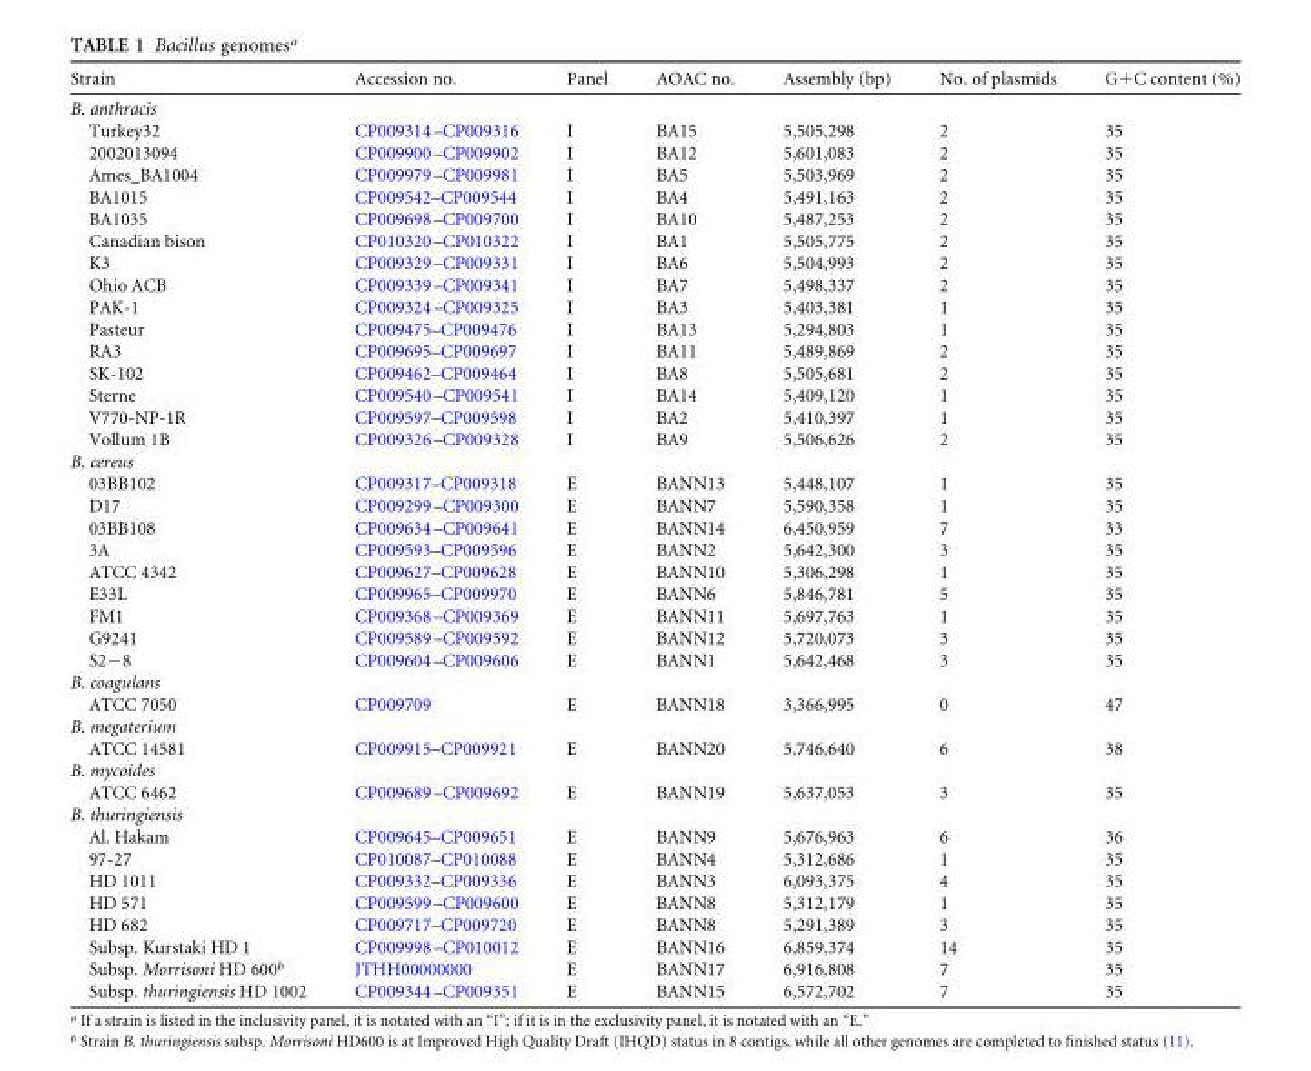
<table><thead><tr><td>Strain</td><td>Accession no.</td><td>Panel</td><td>AOAC no.</td><td>Assembly (bp)</td><td>No. of plasmids</td><td>G+C content (%)</td></tr></thead><tbody><tr><td colspan="7">B. anthracis</td></tr><tr><td>Turkey32</td><td>CP009314–CP009316</td><td>I</td><td>BA15</td><td>5,505,298</td><td>2</td><td>35</td></tr><tr><td>2002013094</td><td>CP009900–CP009902</td><td>I</td><td>BA12</td><td>5,601,083</td><td>2</td><td>35</td></tr><tr><td>Ames_BA1004</td><td>CP009979–CP009981</td><td>I</td><td>BA5</td><td>5,503,969</td><td>2</td><td>35</td></tr><tr><td>BA1015</td><td>CP009542–CP009544</td><td>I</td><td>BA4</td><td>5,491,163</td><td>2</td><td>35</td></tr><tr><td>BA1035</td><td>CP009698–CP009700</td><td>I</td><td>BA10</td><td>5,487,253</td><td>2</td><td>35</td></tr><tr><td>Canadian bison</td><td>CP010320–CP010322</td><td>I</td><td>BA1</td><td>5,505,775</td><td>2</td><td>35</td></tr><tr><td>K3</td><td>CP009329–CP009331</td><td>I</td><td>BA6</td><td>5,504,993</td><td>2</td><td>35</td></tr><tr><td>Ohio ACB</td><td>CP009339–CP009341</td><td>I</td><td>BA7</td><td>5,498,337</td><td>2</td><td>35</td></tr><tr><td>PAK-1</td><td>CP009324–CP009325</td><td>I</td><td>BA3</td><td>5,403,381</td><td>1</td><td>35</td></tr><tr><td>Pasteur</td><td>CP009475–CP009476</td><td>I</td><td>BA13</td><td>5,294,803</td><td>1</td><td>35</td></tr><tr><td>RA3</td><td>CP009695–CP009697</td><td>I</td><td>BA11</td><td>5,489,869</td><td>2</td><td>35</td></tr><tr><td>SK-102</td><td>CP009462–CP009464</td><td>I</td><td>BA8</td><td>5,505,681</td><td>2</td><td>35</td></tr><tr><td>Sterne</td><td>CP009540–CP009541</td><td>I</td><td>BA14</td><td>5,409,120</td><td>1</td><td>35</td></tr><tr><td>V770-NP-1R</td><td>CP009597–CP009598</td><td>I</td><td>BA2</td><td>5,410,397</td><td>1</td><td>35</td></tr><tr><td>Vollum 1B</td><td>CP009326–CP009328</td><td>I</td><td>BA9</td><td>5,506,626</td><td>2</td><td>35</td></tr><tr><td colspan="7">B. cereus</td></tr><tr><td>03BB102</td><td>CP009317–CP009318</td><td>E</td><td>BANN13</td><td>5,448,107</td><td>1</td><td>35</td></tr><tr><td>D17</td><td>CP009299–CP009300</td><td>E</td><td>BANN7</td><td>5,590,358</td><td>1</td><td>35</td></tr><tr><td>03BB108</td><td>CP009634–CP009641</td><td>E</td><td>BANN14</td><td>6,450,959</td><td>7</td><td>33</td></tr><tr><td>3A</td><td>CP009593–CP009596</td><td>E</td><td>BANN2</td><td>5,642,300</td><td>3</td><td>35</td></tr><tr><td>ATCC 4342</td><td>CP009627–CP009628</td><td>E</td><td>BANN10</td><td>5,306,298</td><td>1</td><td>35</td></tr><tr><td>E33L</td><td>CP009965–CP009970</td><td>E</td><td>BANN6</td><td>5,846,781</td><td>5</td><td>35</td></tr><tr><td>FM1</td><td>CP009368–CP009369</td><td>E</td><td>BANN11</td><td>5,697,763</td><td>1</td><td>35</td></tr><tr><td>G9241</td><td>CP009589–CP009592</td><td>E</td><td>BANN12</td><td>5,720,073</td><td>3</td><td>35</td></tr><tr><td>S2-8</td><td>CP009604–CP009606</td><td>E</td><td>BANN1</td><td>5,642,468</td><td>3</td><td>35</td></tr><tr><td colspan="7">B. coagulans</td></tr><tr><td>ATCC 7050</td><td>CP009709</td><td>E</td><td>BANN18</td><td>3,366,995</td><td>0</td><td>47</td></tr><tr><td colspan="7">B. megaterium</td></tr><tr><td>ATCC 14581</td><td>CP009915–CP009921</td><td>E</td><td>BANN20</td><td>5,746,640</td><td>6</td><td>38</td></tr><tr><td colspan="7">B. mycoides</td></tr><tr><td>ATCC 6462</td><td>CP009689–CP009692</td><td>E</td><td>BANN19</td><td>5,637,053</td><td>3</td><td>35</td></tr><tr><td colspan="7">B. thuringiensis</td></tr><tr><td>Al. Hakam</td><td>CP009645–CP009651</td><td>E</td><td>BANN9</td><td>5,676,963</td><td>6</td><td>36</td></tr><tr><td>97-27</td><td>CP010087–CP010088</td><td>E</td><td>BANN4</td><td>5,312,686</td><td>1</td><td>35</td></tr><tr><td>HD 1011</td><td>CP009332–CP009336</td><td>E</td><td>BANN3</td><td>6,093,375</td><td>4</td><td>35</td></tr><tr><td>HD 571</td><td>CP009599–CP009600</td><td>E</td><td>BANN8</td><td>5,312,179</td><td>1</td><td>35</td></tr><tr><td>HD 682</td><td>CP009717–CP009720</td><td>E</td><td>BANN8</td><td>5,291,389</td><td>3</td><td>35</td></tr><tr><td>Subsp. Kurstaki HD 1</td><td>CP009998–CP010012</td><td>E</td><td>BANN16</td><td>6,859,374</td><td>14</td><td>35</td></tr><tr><td>Subsp. Morrisoni HD 600<sup>b</sup></td><td>JTHH00000000</td><td>E</td><td>BANN17</td><td>6,916,808</td><td>7</td><td>35</td></tr><tr><td>Subsp. thuringiensis HD 1002</td><td>CP009344–CP009351</td><td>E</td><td>BANN15</td><td>6,572,702</td><td>7</td><td>35</td></tr></tbody></table>